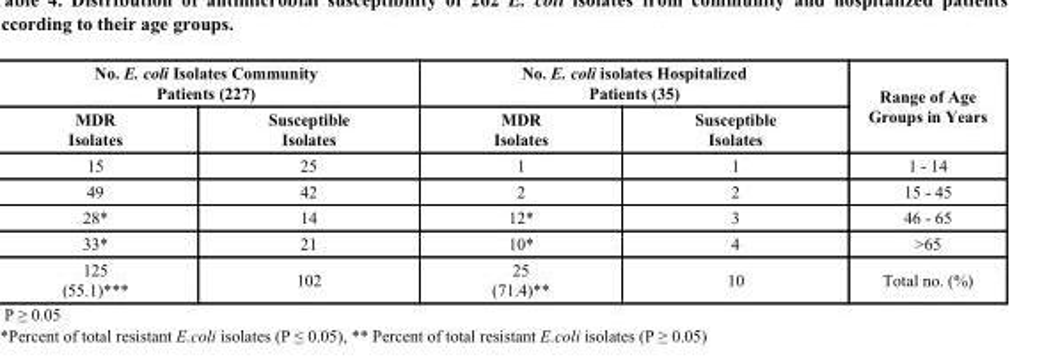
<table><thead><tr><td colspan="2">No. E. coli Isolates Community Patients (227)</td><td colspan="2">No. E. coli isolates Hospitalized Patients (35)</td><td rowspan="2">Range of Age Groups in Years</td></tr><tr><td>MDR Isolates</td><td>Susceptible Isolates</td><td>MDR Isolates</td><td>Susceptible Isolates</td></tr></thead><tbody><tr><td>15</td><td>25</td><td>1</td><td>1</td><td>1 - 14</td></tr><tr><td>49</td><td>42</td><td>2</td><td>2</td><td>15 - 45</td></tr><tr><td>28*</td><td>14</td><td>12*</td><td>3</td><td>46 - 65</td></tr><tr><td>33*</td><td>21</td><td>10*</td><td>4</td><td>&gt;65</td></tr><tr><td>125 (55.1)***</td><td>102</td><td>25 (71.4)**</td><td>10</td><td>Total no. (%)</td></tr></tbody></table>